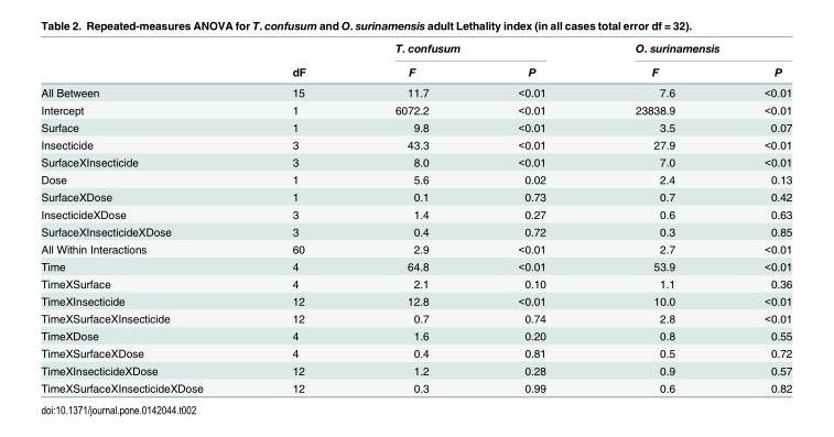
<table><thead><tr><td rowspan="2"></td><td rowspan="2">dF</td><td colspan="2">T. confusum</td><td colspan="2">O. surinamensis</td></tr><tr><td>F</td><td>P</td><td>F</td><td>P</td></tr></thead><tbody><tr><td>All Between</td><td>15</td><td>11.7</td><td>&lt;0.01</td><td>7.6</td><td>&lt;0.01</td></tr><tr><td>Intercept</td><td>1</td><td>6072.2</td><td>&lt;0.01</td><td>23838.9</td><td>&lt;0.01</td></tr><tr><td>Surface</td><td>1</td><td>9.8</td><td>&lt;0.01</td><td>3.5</td><td>0.07</td></tr><tr><td>Insecticide</td><td>3</td><td>43.3</td><td>&lt;0.01</td><td>27.9</td><td>&lt;0.01</td></tr><tr><td>SurfaceXInsecticide</td><td>3</td><td>8.0</td><td>&lt;0.01</td><td>7.0</td><td>&lt;0.01</td></tr><tr><td>Dose</td><td>1</td><td>5.6</td><td>0.02</td><td>2.4</td><td>0.13</td></tr><tr><td>SurfaceXDose</td><td>1</td><td>0.1</td><td>0.73</td><td>0.7</td><td>0.42</td></tr><tr><td>InsecticideXDose</td><td>3</td><td>1.4</td><td>0.27</td><td>0.6</td><td>0.63</td></tr><tr><td>SurfaceXInsecticideXDose</td><td>3</td><td>0.4</td><td>0.72</td><td>0.3</td><td>0.85</td></tr><tr><td>All Within Interactions</td><td>60</td><td>2.9</td><td>&lt;0.01</td><td>2.7</td><td>&lt;0.01</td></tr><tr><td>Time</td><td>4</td><td>64.8</td><td>&lt;0.01</td><td>53.9</td><td>&lt;0.01</td></tr><tr><td>TimeXSurface</td><td>4</td><td>2.1</td><td>0.10</td><td>1.1</td><td>0.36</td></tr><tr><td>TimeXInsecticide</td><td>12</td><td>12.8</td><td>&lt;0.01</td><td>10.0</td><td>&lt;0.01</td></tr><tr><td>TimeXSurfaceXInsecticide</td><td>12</td><td>0.7</td><td>0.74</td><td>2.8</td><td>&lt;0.01</td></tr><tr><td>TimeXDose</td><td>4</td><td>1.6</td><td>0.20</td><td>0.8</td><td>0.55</td></tr><tr><td>TimeXSurfaceXDose</td><td>4</td><td>0.4</td><td>0.81</td><td>0.5</td><td>0.72</td></tr><tr><td>TimeXInsecticideXDose</td><td>12</td><td>1.2</td><td>0.28</td><td>0.9</td><td>0.57</td></tr><tr><td>TimeXSurfaceXInsecticideXDose</td><td>12</td><td>0.3</td><td>0.99</td><td>0.6</td><td>0.82</td></tr></tbody></table>